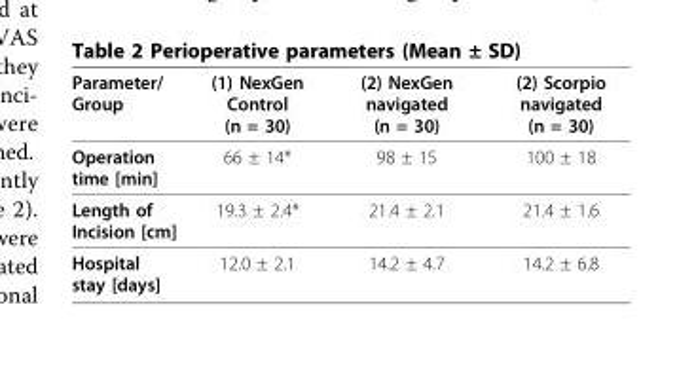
<table><thead><tr><td>Parameter/ Group</td><td>(1) NexGen Control (n = 30)</td><td>(2) NexGen navigated (n = 30)</td><td>(2) Scorpio navigated (n = 30)</td></tr></thead><tbody><tr><td>Operation time [min]</td><td>66 ± 14*</td><td>98 ± 15</td><td>100 ± 18</td></tr><tr><td>Length of Incision [cm]</td><td>19.3 ± 2.4*</td><td>21.4 ± 2.1</td><td>21.4 ± 1.6</td></tr><tr><td>Hospital stay [days]</td><td>12.0 ± 2.1</td><td>14.2 ± 4.7</td><td>14.2 ± 6.8</td></tr></tbody></table>